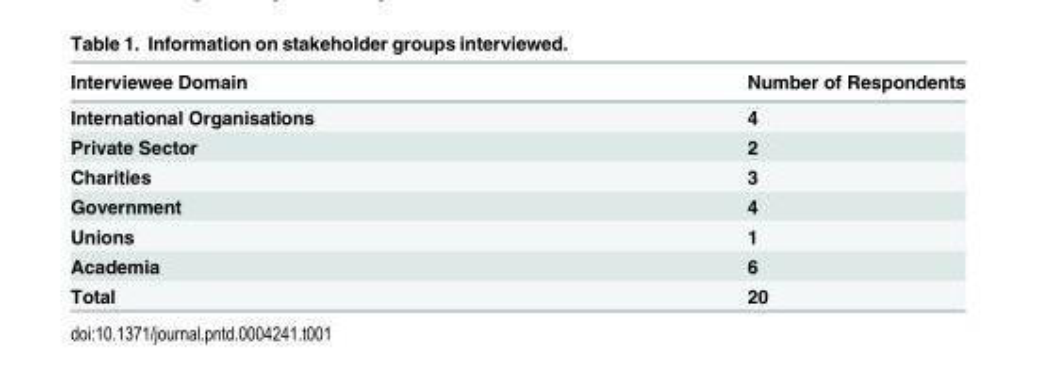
<table><thead><tr><td>Interviewee Domain</td><td>Number of Respondents</td></tr></thead><tbody><tr><td>International Organisations</td><td>4</td></tr><tr><td>Private Sector</td><td>2</td></tr><tr><td>Charities</td><td>3</td></tr><tr><td>Government</td><td>4</td></tr><tr><td>Unions</td><td>1</td></tr><tr><td>Academia</td><td>6</td></tr><tr><td>Total</td><td>20</td></tr></tbody></table>